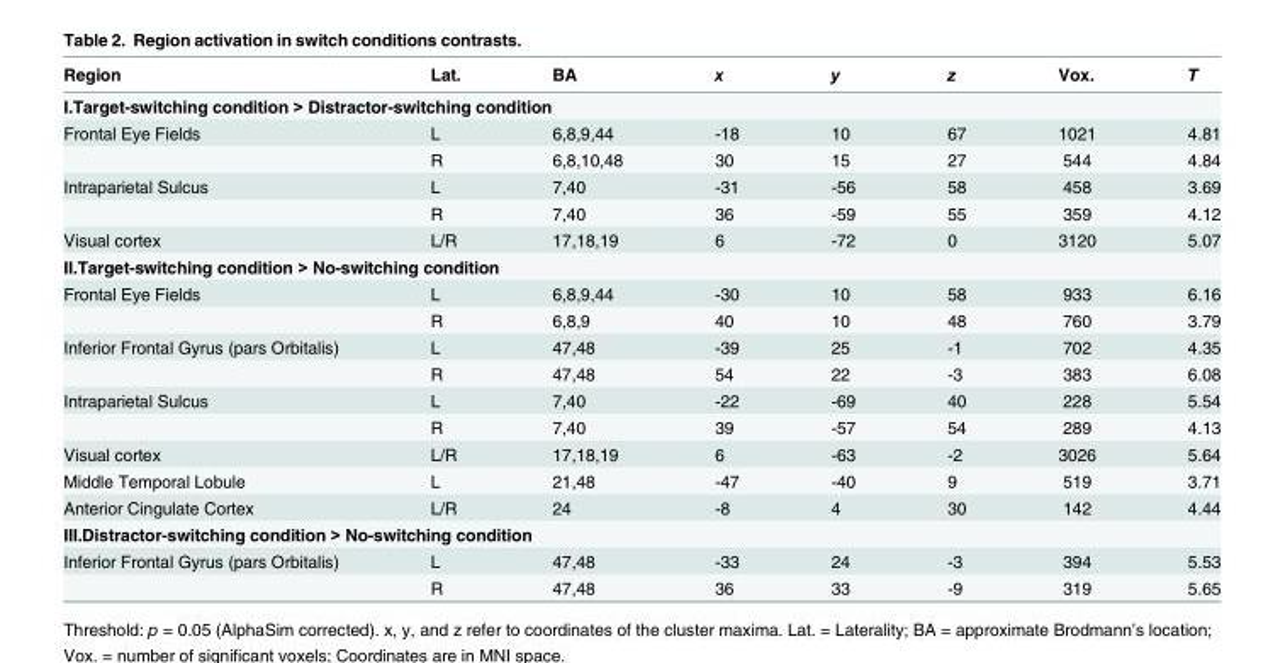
<table><thead><tr><td>Region</td><td>Lat.</td><td>BA</td><td>x</td><td>y</td><td>z</td><td>Vox.</td><td>T</td></tr></thead><tbody><tr><td colspan="8">I.Target-switching condition &gt; Distractor-switching condition</td></tr><tr><td rowspan="2">Frontal Eye Fields</td><td>L</td><td>6,8,9,44</td><td>-18</td><td>10</td><td>67</td><td>1021</td><td>4.81</td></tr><tr><td>R</td><td>6,8,10,48</td><td>30</td><td>15</td><td>27</td><td>544</td><td>4.84</td></tr><tr><td rowspan="2">Intraparietal Sulcus</td><td>L</td><td>7,40</td><td>-31</td><td>-56</td><td>58</td><td>458</td><td>3.69</td></tr><tr><td>R</td><td>7,40</td><td>36</td><td>-59</td><td>55</td><td>359</td><td>4.12</td></tr><tr><td>Visual cortex</td><td>L/R</td><td>17,18,19</td><td>6</td><td>-72</td><td>0</td><td>3120</td><td>5.07</td></tr><tr><td colspan="8">II.Target-switching condition &gt; No-switching condition</td></tr><tr><td rowspan="2">Frontal Eye Fields</td><td>L</td><td>6,8,9,44</td><td>-30</td><td>10</td><td>58</td><td>933</td><td>6.16</td></tr><tr><td>R</td><td>6,8,9</td><td>40</td><td>10</td><td>48</td><td>760</td><td>3.79</td></tr><tr><td rowspan="2">Inferior Frontal Gyrus (pars Orbitalis)</td><td>L</td><td>47,48</td><td>-39</td><td>25</td><td>-1</td><td>702</td><td>4.35</td></tr><tr><td>R</td><td>47,48</td><td>54</td><td>22</td><td>-3</td><td>383</td><td>6.08</td></tr><tr><td rowspan="2">Intraparietal Sulcus</td><td>L</td><td>7,40</td><td>-22</td><td>-69</td><td>40</td><td>228</td><td>5.54</td></tr><tr><td>R</td><td>7,40</td><td>39</td><td>-57</td><td>54</td><td>289</td><td>4.13</td></tr><tr><td>Visual cortex</td><td>L/R</td><td>17,18,19</td><td>6</td><td>-63</td><td>-2</td><td>3026</td><td>5.64</td></tr><tr><td>Middle Temporal Lobule</td><td>L</td><td>21,48</td><td>-47</td><td>-40</td><td>9</td><td>519</td><td>3.71</td></tr><tr><td>Anterior Cingulate Cortex</td><td>L/R</td><td>24</td><td>-8</td><td>4</td><td>30</td><td>142</td><td>4.44</td></tr><tr><td colspan="8">III.Distractor-switching condition &gt; No-switching condition</td></tr><tr><td rowspan="2">Inferior Frontal Gyrus (pars Orbitalis)</td><td>L</td><td>47,48</td><td>-33</td><td>24</td><td>-3</td><td>394</td><td>5.53</td></tr><tr><td>R</td><td>47,48</td><td>36</td><td>33</td><td>-9</td><td>319</td><td>5.65</td></tr></tbody></table>